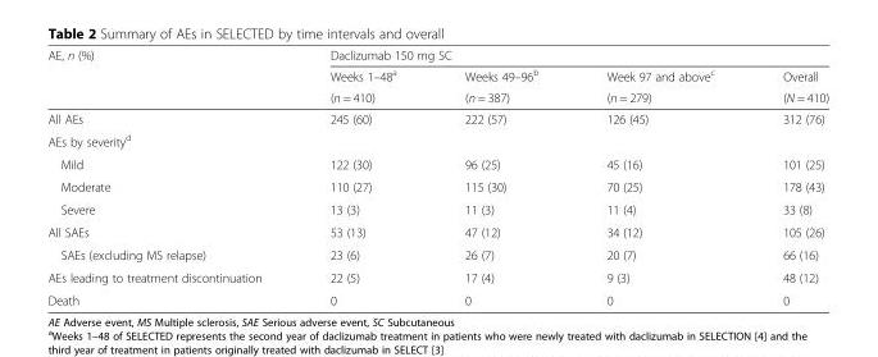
<table><thead><tr><td rowspan="3">AE, n (%)</td><td colspan="4">Daclizumab 150 mg SC</td></tr><tr><td rowspan="2">Weeks 1–48a (n = 410)</td><td rowspan="2">Weeks 49–96<sup>b</sup> (n = 387)</td><td rowspan="2">Week 97 and above<sup>c</sup> (n = 279)</td><td rowspan="2">Overall (N = 410)</td></tr><tr></tr></thead><tbody><tr><td>All AEs</td><td>245 (60)</td><td>222 (57)</td><td>126 (45)</td><td>312 (76)</td></tr><tr><td colspan="5">AEs by severity<sup>d</sup></td></tr><tr><td>Mild</td><td>122 (30)</td><td>96 (25)</td><td>45 (16)</td><td>101 (25)</td></tr><tr><td>Moderate</td><td>110 (27)</td><td>115 (30)</td><td>70 (25)</td><td>178 (43)</td></tr><tr><td>Severe</td><td>13 (3)</td><td>11 (3)</td><td>11 (4)</td><td>33 (8)</td></tr><tr><td>All SAEs</td><td>53 (13)</td><td>47 (12)</td><td>34 (12)</td><td>105 (26)</td></tr><tr><td>SAEs (excluding MS relapse)</td><td>23 (6)</td><td>26 (7)</td><td>20 (7)</td><td>66 (16)</td></tr><tr><td>AEs leading to treatment discontinuation</td><td>22 (5)</td><td>17 (4)</td><td>9 (3)</td><td>48 (12)</td></tr><tr><td>Death</td><td>0</td><td>0</td><td>0</td><td>0</td></tr></tbody></table>